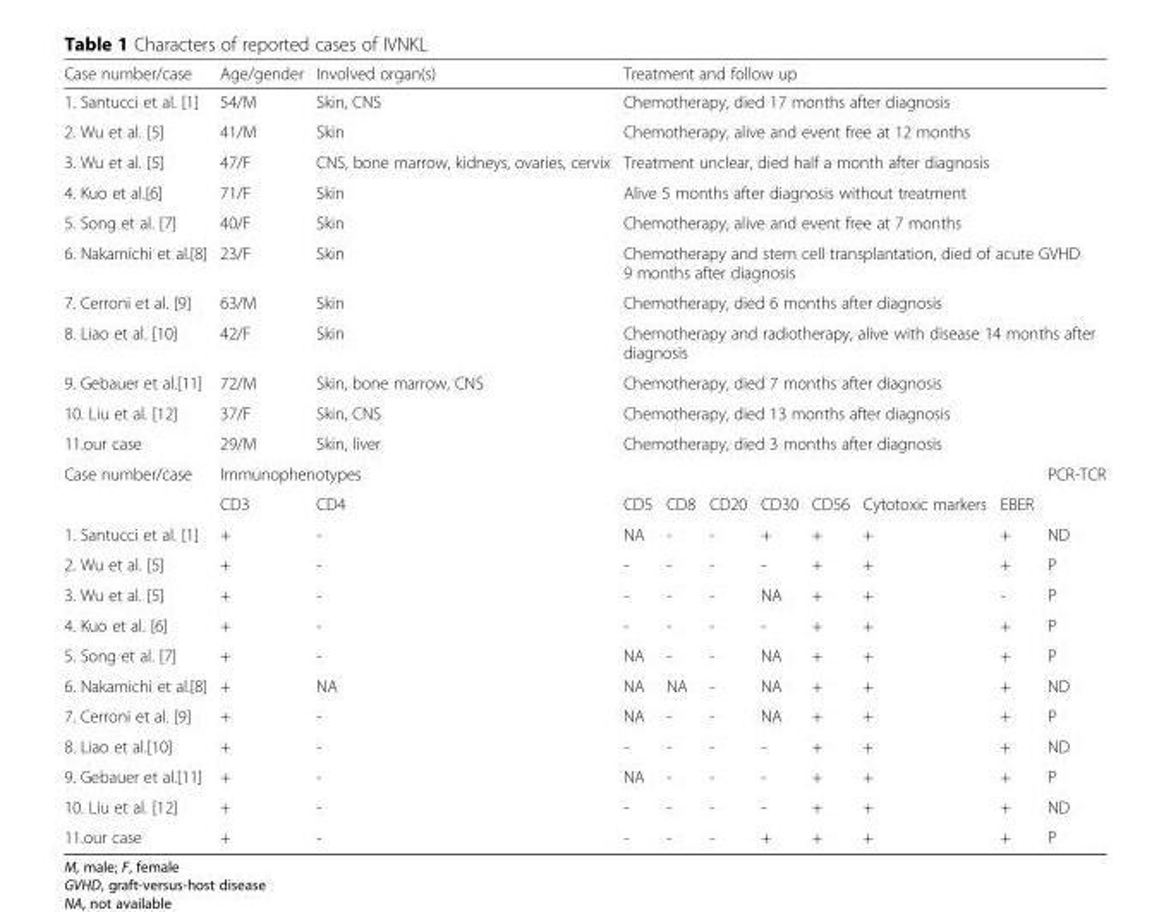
<table><thead><tr><td>Case number/case</td><td>Age/gender</td><td>Involved organ(s)</td><td colspan="8">Treatment and follow up</td></tr></thead><tbody><tr><td>1. Santucci et al. [1]</td><td>54/M</td><td>Skin, CNS</td><td colspan="8">Chemotherapy, died 17 months after diagnosis</td></tr><tr><td>2. Wu et al. [5]</td><td>41/M</td><td>Skin</td><td colspan="8">Chemotherapy, alive and event free at 12 months</td></tr><tr><td>3. Wu et al. [5]</td><td>47/F</td><td>CNS, bone marrow, kidneys, ovaries, cervix</td><td colspan="8">Treatment unclear, died half a month after diagnosis</td></tr><tr><td>4. Kuo et al.[6]</td><td>71/F</td><td>Skin</td><td colspan="8">Alive 5 months after diagnosis without treatment</td></tr><tr><td>5. Song et al. [7]</td><td>40/F</td><td>Skin</td><td colspan="8">Chemotherapy, alive and event free at 7 months</td></tr><tr><td>6. Nakamichi et al.[8]</td><td>23/F</td><td>Skin</td><td colspan="8">Chemotherapy and stem cell transplantation, died of acute GVHD 9 months after diagnosis</td></tr><tr><td>7. Cerroni et al. [9]</td><td>63/M</td><td>Skin</td><td colspan="8">Chemotherapy, died 6 months after diagnosis</td></tr><tr><td>8. Liao et al. [10]</td><td>42/F</td><td>Skin</td><td colspan="8">Chemotherapy and radiotherapy, alive with disease 14 months after diagnosis</td></tr><tr><td>9. Gebauer et al.[11]</td><td>72/M</td><td>Skin, bone marrow, CNS</td><td colspan="8">Chemotherapy, died 7 months after diagnosis</td></tr><tr><td>10. Liu et al. [12]</td><td>37/F</td><td>Skin, CNS</td><td colspan="8">Chemotherapy, died 13 months after diagnosis</td></tr><tr><td>11.our case</td><td>29/M</td><td>Skin, liver</td><td colspan="8">Chemotherapy, died 3 months after diagnosis</td></tr><tr><td rowspan="2">Case number/case</td><td colspan="9">Immunophenotypes</td><td rowspan="2">PCR-TCR</td></tr><tr><td>CD3</td><td>CD4</td><td>CD5</td><td>CD8</td><td>CD20</td><td>CD30</td><td>CD56</td><td>Cytotoxic markers</td><td>EBER</td></tr><tr><td>1. Santucci et al. [1]</td><td>+</td><td>-</td><td>NA</td><td>-</td><td>-</td><td>+</td><td>+</td><td>+</td><td>+</td><td>ND</td></tr><tr><td>2. Wu et al. [5]</td><td>+</td><td>-</td><td>-</td><td>-</td><td>-</td><td>-</td><td>+</td><td>+</td><td>+</td><td>P</td></tr><tr><td>3. Wu et al. [5]</td><td>+</td><td>-</td><td>-</td><td>-</td><td>-</td><td>NA</td><td>+</td><td>+</td><td>-</td><td>P</td></tr><tr><td>4. Kuo et al. [6]</td><td>+</td><td>-</td><td>-</td><td>-</td><td>-</td><td>-</td><td>+</td><td>+</td><td>+</td><td>P</td></tr><tr><td>5. Song et al. [7]</td><td>+</td><td>-</td><td>NA</td><td>-</td><td>-</td><td>NA</td><td>+</td><td>+</td><td>+</td><td>P</td></tr><tr><td>6. Nakamichi et al.[8]</td><td>+</td><td>NA</td><td>NA</td><td>NA</td><td>-</td><td>NA</td><td>+</td><td>+</td><td>+</td><td>ND</td></tr><tr><td>7. Cerroni et al. [9]</td><td>+</td><td>-</td><td>NA</td><td>-</td><td>-</td><td>NA</td><td>+</td><td>+</td><td>+</td><td>P</td></tr><tr><td>8. Liao et al.[10]</td><td>+</td><td>-</td><td>-</td><td>-</td><td>-</td><td>-</td><td>+</td><td>+</td><td>+</td><td>ND</td></tr><tr><td>9. Gebauer et al.[11]</td><td>+</td><td>-</td><td>NA</td><td>-</td><td>-</td><td>-</td><td>+</td><td>+</td><td>+</td><td>P</td></tr><tr><td>10. Liu et al. [12]</td><td>+</td><td>-</td><td>-</td><td>-</td><td>-</td><td>-</td><td>+</td><td>+</td><td>+</td><td>ND</td></tr><tr><td>11.our case</td><td>+</td><td>-</td><td>-</td><td>-</td><td>-</td><td>+</td><td>+</td><td>+</td><td>+</td><td>P</td></tr></tbody></table>